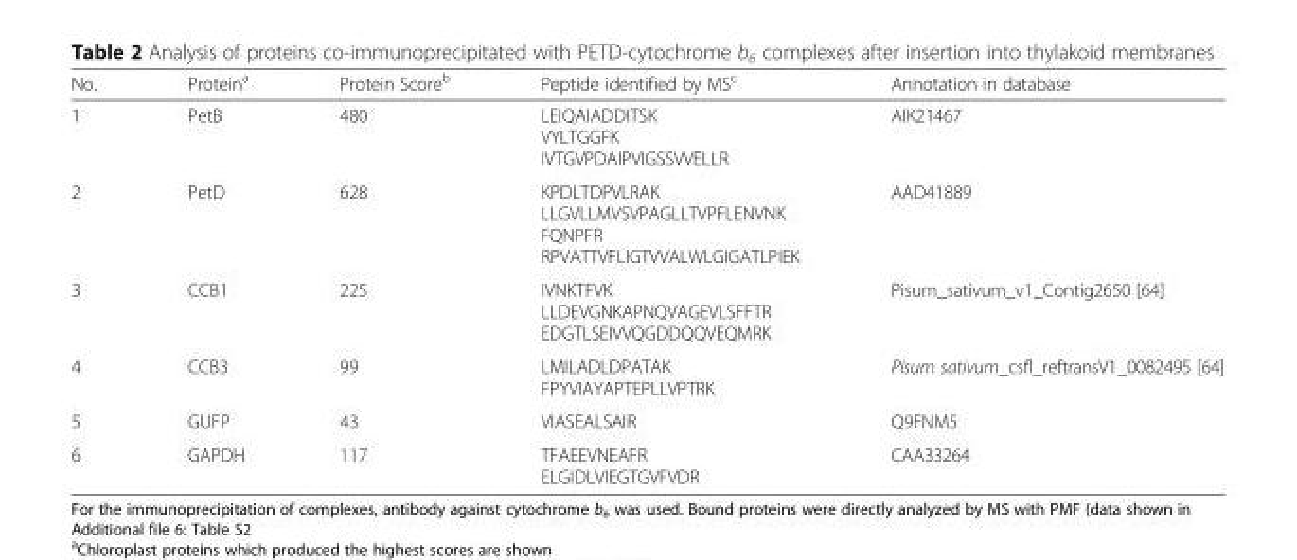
<table><thead><tr><td>No.</td><td>Protein<sup>a</sup></td><td>Protein Score<sup>b</sup></td><td>Peptide identified by MS<sup>c</sup></td><td>Annotation in database</td></tr></thead><tbody><tr><td>1</td><td>PetB</td><td>480</td><td>LEIQAIADDITSK VYLTGGFK IVTGVPDAIPVIGSSVVELLR</td><td>AIK21467</td></tr><tr><td>2</td><td>PetD</td><td>628</td><td>KPDLTDPVLRAK LLGVLLMVSVPAGLLTVPFLENVNK FQNPFR RPVATTVFLIGTVVALWLGIGATLPIEK</td><td>AAD41889</td></tr><tr><td>3</td><td>CCB1</td><td>225</td><td>IVNKTFVK LLDEVGNKAPNQVAGEVLSFFTR EDGTLSEIVVQGDDQQVEQMRK</td><td>Pisum_sativum_v1_Contig2650 [64]</td></tr><tr><td>4</td><td>CCB3</td><td>99</td><td>LMILADLDPATAK FPYVIAYAPTEPLLVPTRK</td><td>Pisum sativum_csfl_reftransV1_0082495 [64]</td></tr><tr><td>5</td><td>GUFP</td><td>43</td><td>VIASEALSAIR</td><td>Q9FNM5</td></tr><tr><td>6</td><td>GAPDH</td><td>117</td><td>TFAEEVNEAFR ELGIDLVIEGTGVFVDR</td><td>CAA33264</td></tr></tbody></table>